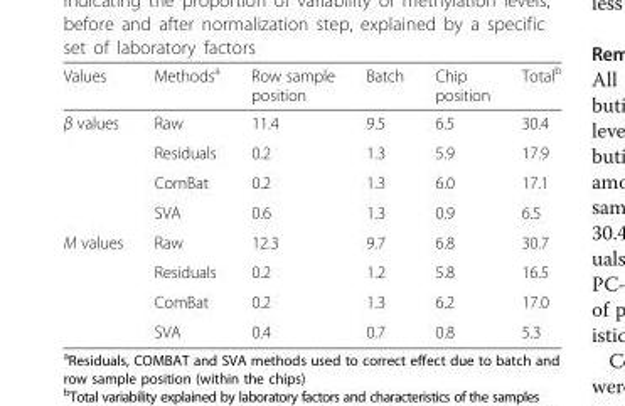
<table><thead><tr><td>Values</td><td>Methods<sup>a</sup></td><td>Row sample position</td><td>Batch</td><td>Chip position</td><td>Total<sup>b</sup></td></tr></thead><tbody><tr><td rowspan="4">β values</td><td>Raw</td><td>11.4</td><td>9.5</td><td>6.5</td><td>30.4</td></tr><tr><td>Residuals</td><td>0.2</td><td>1.3</td><td>5.9</td><td>17.9</td></tr><tr><td>ComBat</td><td>0.2</td><td>1.3</td><td>6.0</td><td>17.1</td></tr><tr><td>SVA</td><td>0.6</td><td>1.3</td><td>0.9</td><td>6.5</td></tr><tr><td rowspan="4">M values</td><td>Raw</td><td>12.3</td><td>9.7</td><td>6.8</td><td>30.7</td></tr><tr><td>Residuals</td><td>0.2</td><td>1.2</td><td>5.8</td><td>16.5</td></tr><tr><td>ComBat</td><td>0.2</td><td>1.3</td><td>6.2</td><td>17.0</td></tr><tr><td>SVA</td><td>0.4</td><td>0.7</td><td>0.8</td><td>5.3</td></tr></tbody></table>